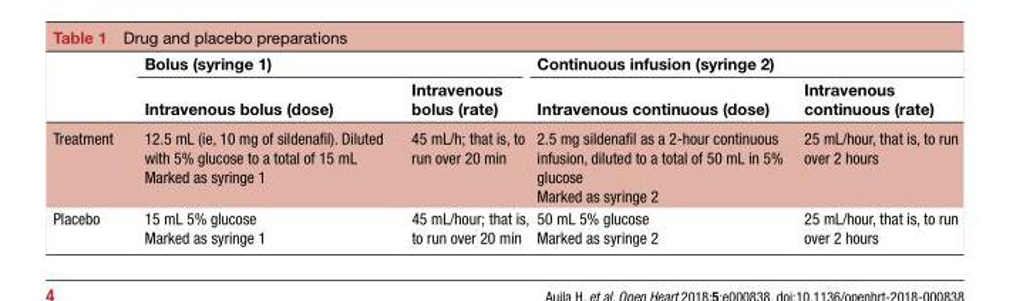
<table><thead><tr><td rowspan="2"></td><td colspan="2">Bolus (syringe 1)</td><td colspan="2">Continuous infusion (syringe 2)</td></tr><tr><td>Intravenous bolus (dose)</td><td>Intravenous bolus (rate)</td><td>Intravenous continuous (dose)</td><td>Intravenous continuous (rate)</td></tr></thead><tbody><tr><td>Treatment</td><td>12.5 mL (ie, 10 mg of sildenafil). Diluted with 5% glucose to a total of 15 mL Marked as syringe 1</td><td>45 mL/h; that is, to run over 20 min</td><td>2.5 mg sildenafil as a 2-hour continuous infusion, diluted to a total of 50 mL in 5% glucose Marked as syringe 2</td><td>25 mL/hour, that is, to run over 2 hours</td></tr><tr><td>Placebo</td><td>15 mL 5% glucose Marked as syringe 1</td><td>45 mL/hour; that is, to run over 20 min</td><td>50 mL 5% glucose Marked as syringe 2</td><td>25 mL/hour, that is, to run over 2 hours</td></tr></tbody></table>